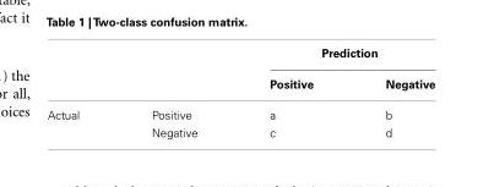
<table><thead><tr><td rowspan="2"></td><td rowspan="2"></td><td colspan="2">Prediction</td></tr><tr><td>Positive</td><td>Negative</td></tr></thead><tbody><tr><td rowspan="2">Actual</td><td>Positive</td><td>a</td><td>b</td></tr><tr><td>Negative</td><td>c</td><td>d</td></tr></tbody></table>